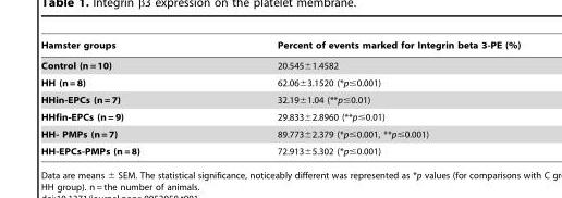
<table><thead><tr><td>Hamster groups</td><td>Percent of events marked for Integrin beta 3-PE (%)</td></tr></thead><tbody><tr><td>Control (n = 10)</td><td>20.545±1.4582</td></tr><tr><td>HH (n = 8)</td><td>62.06±3.1520 (*p≤0.001)</td></tr><tr><td>HHin-EPCs (n = 7)</td><td>32.19±1.04 (**p≤0.01)</td></tr><tr><td>HHfin-EPCs (n = 9)</td><td>29.833±2.8960 (**p≤0.01)</td></tr><tr><td>HH- PMPs (n = 7)</td><td>89.773±2.379 (*p≤0.001, **p≤0.001)</td></tr><tr><td>HH-EPCs-PMPs (n = 8)</td><td>72.913±5.302 (*p≤0.001)</td></tr></tbody></table>